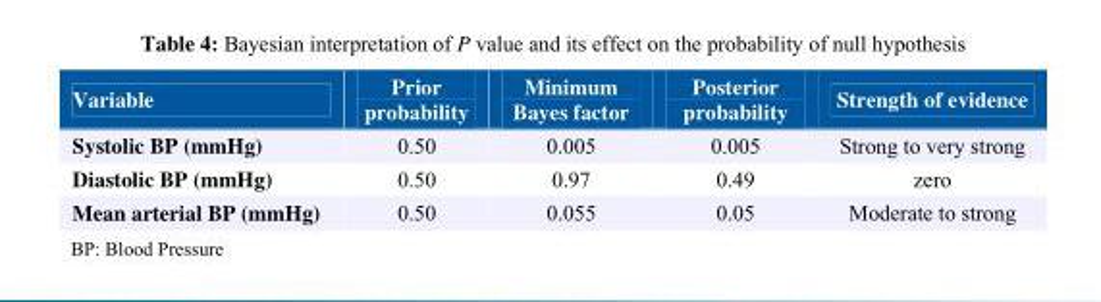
<table><thead><tr><td>Variable</td><td>Prior probability</td><td>Minimum Bayes factor</td><td>Posterior probability</td><td>Strength of evidence</td></tr></thead><tbody><tr><td>Systolic BP (mmHg)</td><td>0.50</td><td>0.005</td><td>0.005</td><td>Strong to very strong</td></tr><tr><td>Diastolic BP (mmHg)</td><td>0.50</td><td>0.97</td><td>0.49</td><td>zero</td></tr><tr><td>Mean arterial BP (mmHg)</td><td>0.50</td><td>0.055</td><td>0.05</td><td>Moderate to strong</td></tr></tbody></table>